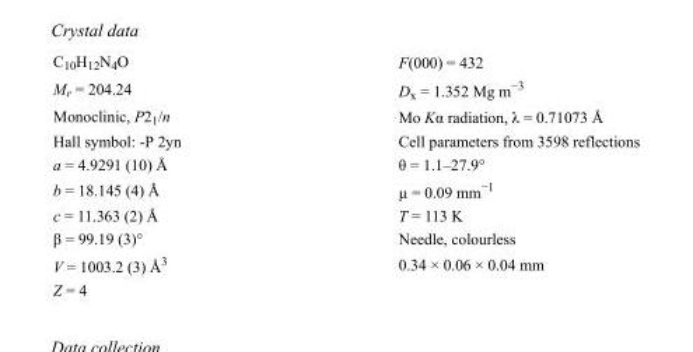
<table><tbody><tr><td>C<sub>10</sub>H<sub>12</sub>N<sub>4</sub>O</td><td>F(000) = 432</td></tr><tr><td>M<sub>r</sub> = 204.24</td><td>D<sub>x</sub> = 1.352 Mg m<sup>−3</sup></td></tr><tr><td>Monoclinic, P2<sub>1</sub>/n</td><td>Mo Kα radiation, λ = 0.71073 Å</td></tr><tr><td>Hall symbol: -P 2yn</td><td>Cell parameters from 3598 reflections</td></tr><tr><td>a = 4.9291 (10) Å</td><td>θ = 1.1–27.9°</td></tr><tr><td>b = 18.145 (4) Å</td><td>µ = 0.09 mm<sup>−1</sup></td></tr><tr><td>c = 11.363 (2) Å</td><td>T = 113 K</td></tr><tr><td>β = 99.19 (3)°</td><td>Needle, colourless</td></tr><tr><td>V = 1003.2 (3) Å<sup>3</sup></td><td>0.34 × 0.06 × 0.04 mm</td></tr><tr><td>Z = 4</td><td></td></tr></tbody></table>